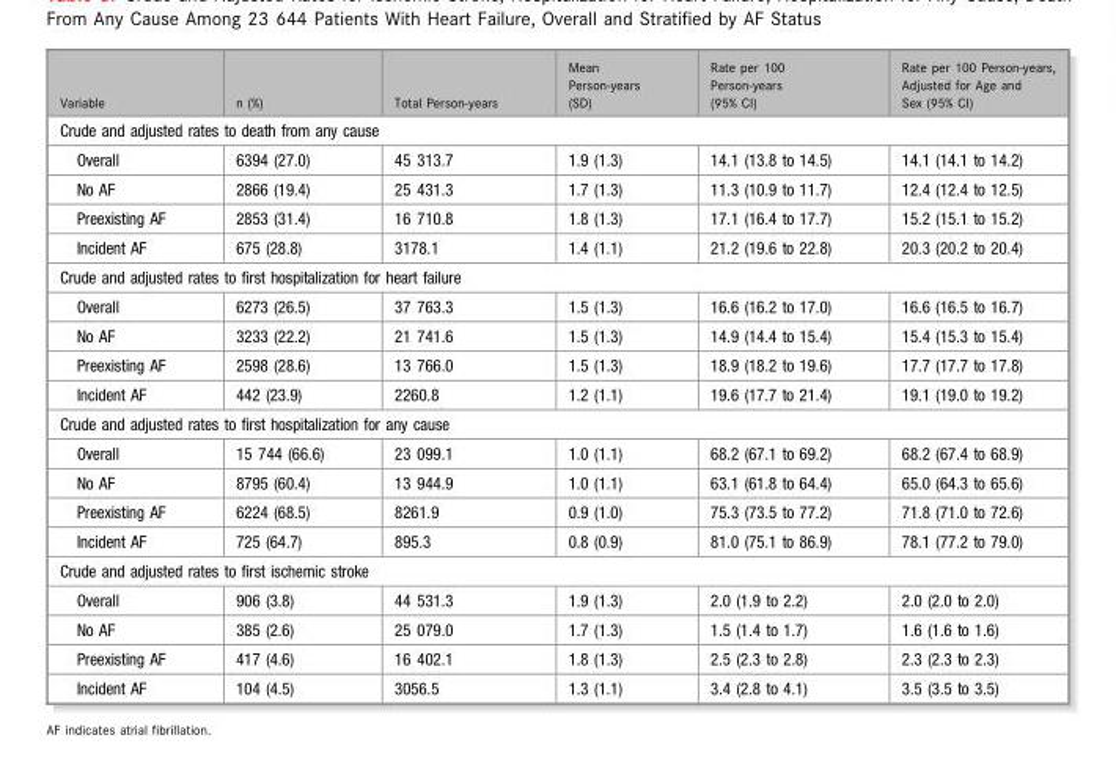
<table><thead><tr><td>Variable</td><td>n (%)</td><td>Total Person-years</td><td>Mean Person-years (SD)</td><td>Rate per 100 Person-years (95% CI)</td><td>Rate per 100 Person-years, Adjusted for Age and Sex (95% CI)</td></tr></thead><tbody><tr><td colspan="6">Crude and adjusted rates to death from any cause</td></tr><tr><td>Overall</td><td>6394 (27.0)</td><td>45 313.7</td><td>1.9 (1.3)</td><td>14.1 (13.8 to 14.5)</td><td>14.1 (14.1 to 14.2)</td></tr><tr><td>No AF</td><td>2866 (19.4)</td><td>25 431.3</td><td>1.7 (1.3)</td><td>11.3 (10.9 to 11.7)</td><td>12.4 (12.4 to 12.5)</td></tr><tr><td>Preexisting AF</td><td>2853 (31.4)</td><td>16 710.8</td><td>1.8 (1.3)</td><td>17.1 (16.4 to 17.7)</td><td>15.2 (15.1 to 15.2)</td></tr><tr><td>Incident AF</td><td>675 (28.8)</td><td>3178.1</td><td>1.4 (1.1)</td><td>21.2 (19.6 to 22.8)</td><td>20.3 (20.2 to 20.4)</td></tr><tr><td colspan="6">Crude and adjusted rates to first hospitalization for heart failure</td></tr><tr><td>Overall</td><td>6273 (26.5)</td><td>37 763.3</td><td>1.5 (1.3)</td><td>16.6 (16.2 to 17.0)</td><td>16.6 (16.5 to 16.7)</td></tr><tr><td>No AF</td><td>3233 (22.2)</td><td>21 741.6</td><td>1.5 (1.3)</td><td>14.9 (14.4 to 15.4)</td><td>15.4 (15.3 to 15.4)</td></tr><tr><td>Preexisting AF</td><td>2598 (28.6)</td><td>13 766.0</td><td>1.5 (1.3)</td><td>18.9 (18.2 to 19.6)</td><td>17.7 (17.7 to 17.8)</td></tr><tr><td>Incident AF</td><td>442 (23.9)</td><td>2260.8</td><td>1.2 (1.1)</td><td>19.6 (17.7 to 21.4)</td><td>19.1 (19.0 to 19.2)</td></tr><tr><td colspan="6">Crude and adjusted rates to first hospitalization for any cause</td></tr><tr><td>Overall</td><td>15 744 (66.6)</td><td>23 099.1</td><td>1.0 (1.1)</td><td>68.2 (67.1 to 69.2)</td><td>68.2 (67.4 to 68.9)</td></tr><tr><td>No AF</td><td>8795 (60.4)</td><td>13 944.9</td><td>1.0 (1.1)</td><td>63.1 (61.8 to 64.4)</td><td>65.0 (64.3 to 65.6)</td></tr><tr><td>Preexisting AF</td><td>6224 (68.5)</td><td>8261.9</td><td>0.9 (1.0)</td><td>75.3 (73.5 to 77.2)</td><td>71.8 (71.0 to 72.6)</td></tr><tr><td>Incident AF</td><td>725 (64.7)</td><td>895.3</td><td>0.8 (0.9)</td><td>81.0 (75.1 to 86.9)</td><td>78.1 (77.2 to 79.0)</td></tr><tr><td colspan="6">Crude and adjusted rates to first ischemic stroke</td></tr><tr><td>Overall</td><td>906 (3.8)</td><td>44 531.3</td><td>1.9 (1.3)</td><td>2.0 (1.9 to 2.2)</td><td>2.0 (2.0 to 2.0)</td></tr><tr><td>No AF</td><td>385 (2.6)</td><td>25 079.0</td><td>1.7 (1.3)</td><td>1.5 (1.4 to 1.7)</td><td>1.6 (1.6 to 1.6)</td></tr><tr><td>Preexisting AF</td><td>417 (4.6)</td><td>16 402.1</td><td>1.8 (1.3)</td><td>2.5 (2.3 to 2.8)</td><td>2.3 (2.3 to 2.3)</td></tr><tr><td>Incident AF</td><td>104 (4.5)</td><td>3056.5</td><td>1.3 (1.1)</td><td>3.4 (2.8 to 4.1)</td><td>3.5 (3.5 to 3.5)</td></tr></tbody></table>